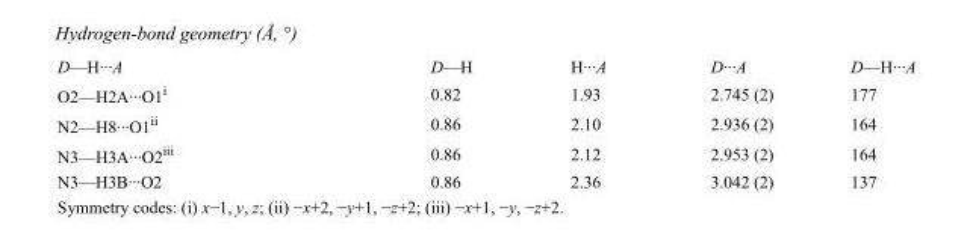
<table><tbody><tr><td>D—H···A</td><td>D—H</td><td>H···A</td><td>D···A</td><td>D—H···A</td></tr><tr><td>O2—H2A···O1<sup>i</sup></td><td>0.82</td><td>1.93</td><td>2.745 (2)</td><td>177</td></tr><tr><td>N2—H8···O1<sup>ii</sup></td><td>0.86</td><td>2.10</td><td>2.936 (2)</td><td>164</td></tr><tr><td>N3—H3A···O2<sup>iii</sup></td><td>0.86</td><td>2.12</td><td>2.953 (2)</td><td>164</td></tr><tr><td>N3—H3B···O2</td><td>0.86</td><td>2.36</td><td>3.042 (2)</td><td>137</td></tr></tbody></table>